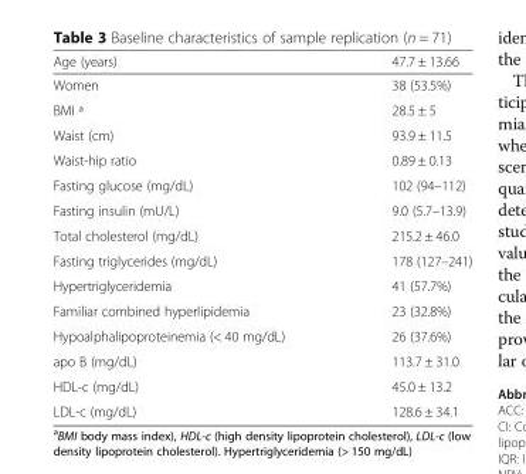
<table><thead><tr><td>Age (years)</td><td>47.7 ± 13.66</td></tr></thead><tbody><tr><td>Women</td><td>38 (53.5%)</td></tr><tr><td>BMI ª</td><td>28.5 ± 5</td></tr><tr><td>Waist (cm)</td><td>93.9 ± 11.5</td></tr><tr><td>Waist-hip ratio</td><td>0.89 ± 0.13</td></tr><tr><td>Fasting glucose (mg/dL)</td><td>102 (94–112)</td></tr><tr><td>Fasting insulin (mU/L)</td><td>9.0 (5.7–13.9)</td></tr><tr><td>Total cholesterol (mg/dL)</td><td>215.2 ± 46.0</td></tr><tr><td>Fasting triglycerides (mg/dL)</td><td>178 (127–241)</td></tr><tr><td>Hypertriglyceridemia</td><td>41 (57.7%)</td></tr><tr><td>Familiar combined hyperlipidemia</td><td>23 (32.8%)</td></tr><tr><td>Hypoalphalipoproteinemia (&lt; 40 mg/dL)</td><td>26 (37.6%)</td></tr><tr><td>apo B (mg/dL)</td><td>113.7 ± 31.0</td></tr><tr><td>HDL-c (mg/dL)</td><td>45.0 ± 13.2</td></tr><tr><td>LDL-c (mg/dL)</td><td>128.6 ± 34.1</td></tr></tbody></table>